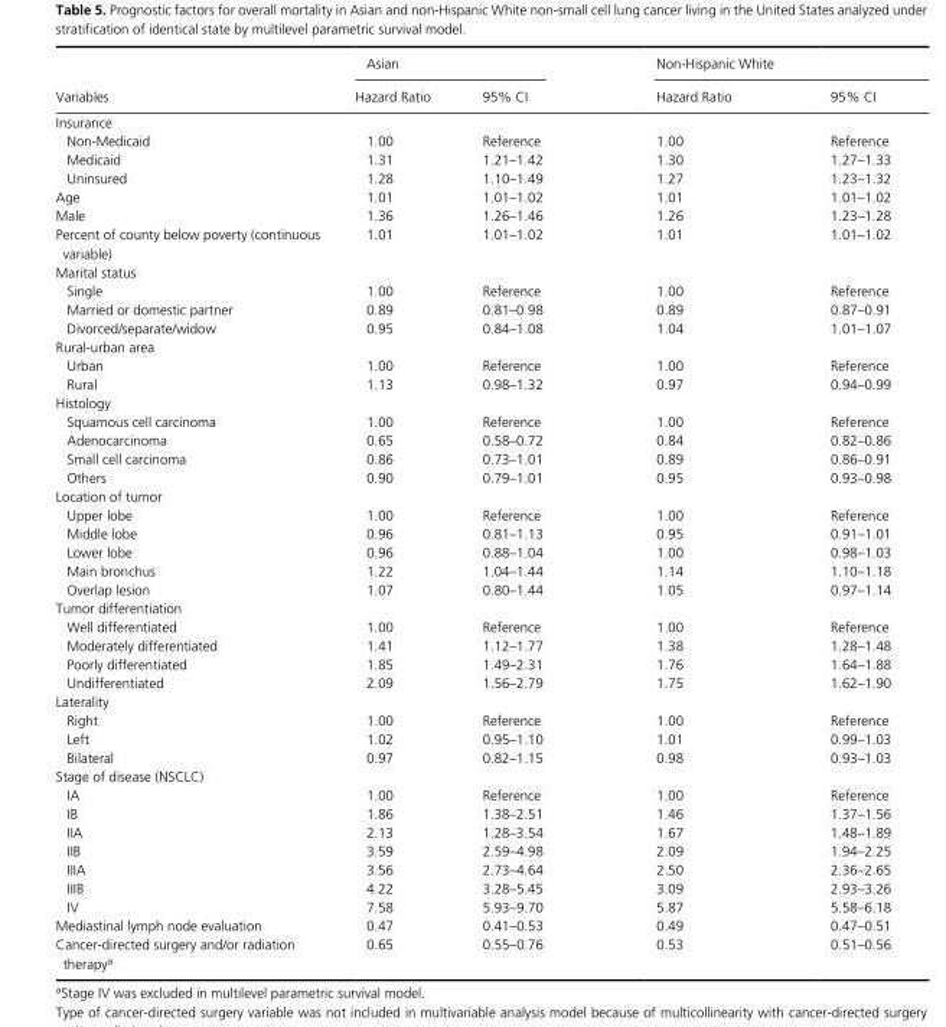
<table><thead><tr><td rowspan="2">Variables</td><td colspan="2">Asian</td><td colspan="2">Non- Hispanic White</td></tr><tr><td>Hazard Ratio</td><td>95% CI</td><td>Hazard Ratio</td><td>95% CI</td></tr></thead><tbody><tr><td colspan="5">Insurance</td></tr><tr><td>Non- Medicaid</td><td>1.00</td><td>Reference</td><td>1.00</td><td>Reference</td></tr><tr><td>Medicaid</td><td>1.31</td><td>1.21–1.42</td><td>1.30</td><td>1.27–1.33</td></tr><tr><td>Uninsured</td><td>1.28</td><td>1.10–1.49</td><td>1.27</td><td>1.23–1.32</td></tr><tr><td>Age</td><td>1.01</td><td>1.01–1.02</td><td>1.01</td><td>1.01–1.02</td></tr><tr><td>Male</td><td>1.36</td><td>1.26–1.46</td><td>1.26</td><td>1.23–1.28</td></tr><tr><td>Percent of county below poverty (continuous variable)</td><td>1.01</td><td>1.01–1.02</td><td>1.01</td><td>1.01–1.02</td></tr><tr><td colspan="5">Marital status</td></tr><tr><td>Single</td><td>1.00</td><td>Reference</td><td>1.00</td><td>Reference</td></tr><tr><td>Married or domestic partner</td><td>0.89</td><td>0.81–0.98</td><td>0.89</td><td>0.87–0.91</td></tr><tr><td>Divorced/separate/widow</td><td>0.95</td><td>0.84–1.08</td><td>1.04</td><td>1.01–1.07</td></tr><tr><td colspan="5">Rural- urban area</td></tr><tr><td>Urban</td><td>1.00</td><td>Reference</td><td>1.00</td><td>Reference</td></tr><tr><td>Rural</td><td>1.13</td><td>0.98–1.32</td><td>0.97</td><td>0.94–0.99</td></tr><tr><td colspan="5">Histology</td></tr><tr><td>Squamous cell carcinoma</td><td>1.00</td><td>Reference</td><td>1.00</td><td>Reference</td></tr><tr><td>Adenocarcinoma</td><td>0.65</td><td>0.58–0.72</td><td>0.84</td><td>0.82–0.86</td></tr><tr><td>Small cell carcinoma</td><td>0.86</td><td>0.73–1.01</td><td>0.89</td><td>0.86–0.91</td></tr><tr><td>Others</td><td>0.90</td><td>0.79–1.01</td><td>0.95</td><td>0.93–0.98</td></tr><tr><td colspan="5">Location of tumor</td></tr><tr><td>Upper lobe</td><td>1.00</td><td>Reference</td><td>1.00</td><td>Reference</td></tr><tr><td>Middle lobe</td><td>0.96</td><td>0.81–1.13</td><td>0.95</td><td>0.91–1.01</td></tr><tr><td>Lower lobe</td><td>0.96</td><td>0.88–1.04</td><td>1.00</td><td>0.98–1.03</td></tr><tr><td>Main bronchus</td><td>1.22</td><td>1.04–1.44</td><td>1.14</td><td>1.10–1.18</td></tr><tr><td>Overlap lesion</td><td>1.07</td><td>0.80–1.44</td><td>1.05</td><td>0.97–1.14</td></tr><tr><td colspan="5">Tumor differentiation</td></tr><tr><td>Well differentiated</td><td>1.00</td><td>Reference</td><td>1.00</td><td>Reference</td></tr><tr><td>Moderately differentiated</td><td>1.41</td><td>1.12–1.77</td><td>1.38</td><td>1.28–1.48</td></tr><tr><td>Poorly differentiated</td><td>1.85</td><td>1.49–2.31</td><td>1.76</td><td>1.64–1.88</td></tr><tr><td>Undifferentiated</td><td>2.09</td><td>1.56–2.79</td><td>1.75</td><td>1.62–1.90</td></tr><tr><td colspan="5">Laterality</td></tr><tr><td>Right</td><td>1.00</td><td>Reference</td><td>1.00</td><td>Reference</td></tr><tr><td>Left</td><td>1.02</td><td>0.95–1.10</td><td>1.01</td><td>0.99–1.03</td></tr><tr><td>Bilateral</td><td>0.97</td><td>0.82–1.15</td><td>0.98</td><td>0.93–1.03</td></tr><tr><td colspan="5">Stage of disease (NSCLC)</td></tr><tr><td>IA</td><td>1.00</td><td>Reference</td><td>1.00</td><td>Reference</td></tr><tr><td>IB</td><td>1.86</td><td>1.38–2.51</td><td>1.46</td><td>1.37–1.56</td></tr><tr><td>IIA</td><td>2.13</td><td>1.28–3.54</td><td>1.67</td><td>1.48–1.89</td></tr><tr><td>IIB</td><td>3.59</td><td>2.59–4.98</td><td>2.09</td><td>1.94–2.25</td></tr><tr><td>IIIA</td><td>3.56</td><td>2.73–4.64</td><td>2.50</td><td>2.36–2.65</td></tr><tr><td>IIIB</td><td>4.22</td><td>3.28–5.45</td><td>3.09</td><td>2.93–3.26</td></tr><tr><td>IV</td><td>7.58</td><td>5.93–9.70</td><td>5.87</td><td>5.58–6.18</td></tr><tr><td>Mediastinal lymph node evaluation</td><td>0.47</td><td>0.41–0.53</td><td>0.49</td><td>0.47–0.51</td></tr><tr><td>Cancer- directed surgery and/or radiation therapy<sup>a</sup></td><td>0.65</td><td>0.55–0.76</td><td>0.53</td><td>0.51–0.56</td></tr></tbody></table>